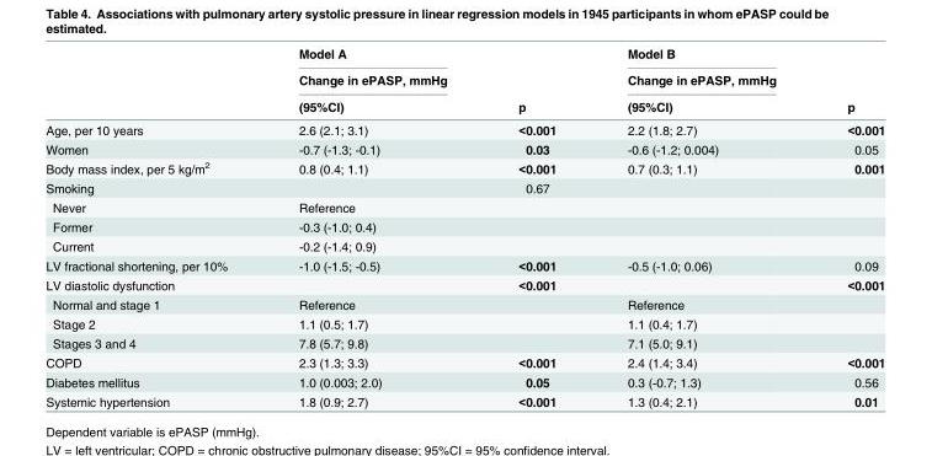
<table><thead><tr><td rowspan="3"></td><td rowspan="3">Model A Change in ePASP, mmHg (95%CI)</td><td rowspan="3">p</td><td rowspan="3">Model B Change in ePASP, mmHg (95%CI)</td><td rowspan="3">p</td></tr><tr></tr><tr></tr></thead><tbody><tr><td>Age, per 10 years</td><td>2.6 (2.1; 3.1)</td><td>&lt;0.001</td><td>2.2 (1.8; 2.7)</td><td>&lt;0.001</td></tr><tr><td>Women</td><td>-0.7 (-1.3; -0.1)</td><td>0.03</td><td>-0.6 (-1.2; 0.004)</td><td>0.05</td></tr><tr><td>Body mass index, per 5 kg/m<sup>2</sup></td><td>0.8 (0.4; 1.1)</td><td>&lt;0.001</td><td>0.7 (0.3; 1.1)</td><td>0.001</td></tr><tr><td>Smoking</td><td></td><td>0.67</td><td></td><td></td></tr><tr><td>Never</td><td>Reference</td><td></td><td></td><td></td></tr><tr><td>Former</td><td>-0.3 (-1.0; 0.4)</td><td></td><td></td><td></td></tr><tr><td>Current</td><td>-0.2 (-1.4; 0.9)</td><td></td><td></td><td></td></tr><tr><td>LV fractional shortening, per 10%</td><td>-1.0 (-1.5; -0.5)</td><td>&lt;0.001</td><td>-0.5 (-1.0; 0.06)</td><td>0.09</td></tr><tr><td>LV diastolic dysfunction</td><td></td><td>&lt;0.001</td><td></td><td>&lt;0.001</td></tr><tr><td>Normal and stage 1</td><td>Reference</td><td></td><td>Reference</td><td></td></tr><tr><td>Stage 2</td><td>1.1 (0.5; 1.7)</td><td></td><td>1.1 (0.4; 1.7)</td><td></td></tr><tr><td>Stages 3 and 4</td><td>7.8 (5.7; 9.8)</td><td></td><td>7.1 (5.0; 9.1)</td><td></td></tr><tr><td>COPD</td><td>2.3 (1.3; 3.3)</td><td>&lt;0.001</td><td>2.4 (1.4; 3.4)</td><td>&lt;0.001</td></tr><tr><td>Diabetes mellitus</td><td>1.0 (0.003; 2.0)</td><td>0.05</td><td>0.3 (-0.7; 1.3)</td><td>0.56</td></tr><tr><td>Systemic hypertension</td><td>1.8 (0.9; 2.7)</td><td>&lt;0.001</td><td>1.3 (0.4; 2.1)</td><td>0.01</td></tr></tbody></table>